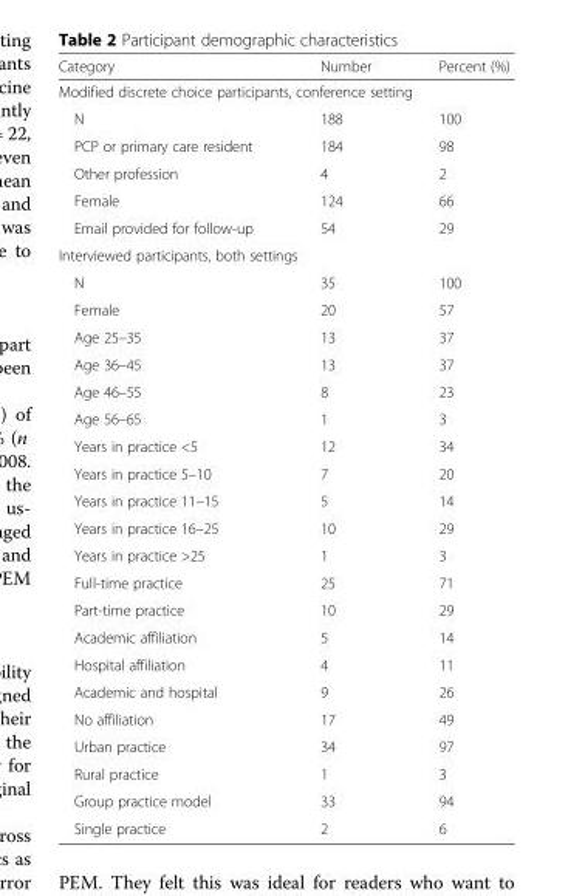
<table><thead><tr><td>Category</td><td>Number</td><td>Percent (%)</td></tr></thead><tbody><tr><td colspan="3">Modified discrete choice participants, conference setting</td></tr><tr><td>N</td><td>188</td><td>100</td></tr><tr><td>PCP or primary care resident</td><td>184</td><td>98</td></tr><tr><td>Other profession</td><td>4</td><td>2</td></tr><tr><td>Female</td><td>124</td><td>66</td></tr><tr><td>Email provided for follow-up</td><td>54</td><td>29</td></tr><tr><td colspan="3">Interviewed participants, both settings</td></tr><tr><td>N</td><td>35</td><td>100</td></tr><tr><td>Female</td><td>20</td><td>57</td></tr><tr><td>Age 25–35</td><td>13</td><td>37</td></tr><tr><td>Age 36–45</td><td>13</td><td>37</td></tr><tr><td>Age 46–55</td><td>8</td><td>23</td></tr><tr><td>Age 56–65</td><td>1</td><td>3</td></tr><tr><td>Years in practice &lt;5</td><td>12</td><td>34</td></tr><tr><td>Years in practice 5–10</td><td>7</td><td>20</td></tr><tr><td>Years in practice 11–15</td><td>5</td><td>14</td></tr><tr><td>Years in practice 16–25</td><td>10</td><td>29</td></tr><tr><td>Years in practice &gt;25</td><td>1</td><td>3</td></tr><tr><td>Full-time practice</td><td>25</td><td>71</td></tr><tr><td>Part-time practice</td><td>10</td><td>29</td></tr><tr><td>Academic affiliation</td><td>5</td><td>14</td></tr><tr><td>Hospital affiliation</td><td>4</td><td>11</td></tr><tr><td>Academic and hospital</td><td>9</td><td>26</td></tr><tr><td>No affiliation</td><td>17</td><td>49</td></tr><tr><td>Urban practice</td><td>34</td><td>97</td></tr><tr><td>Rural practice</td><td>1</td><td>3</td></tr><tr><td>Group practice model</td><td>33</td><td>94</td></tr><tr><td>Single practice</td><td>2</td><td>6</td></tr></tbody></table>